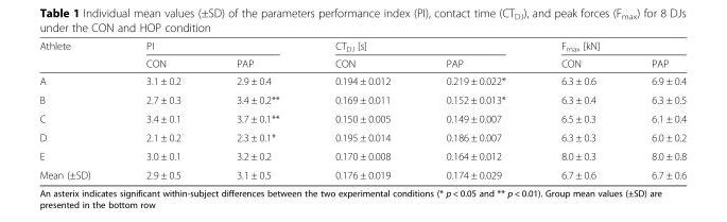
<table><thead><tr><td rowspan="2">Athlete</td><td colspan="2">PI</td><td colspan="2">CT<sub>DJ</sub> [s]</td><td colspan="2">F<sub>max</sub> [kN]</td></tr><tr><td>CON</td><td>PAP</td><td>CON</td><td>PAP</td><td>CON</td><td>PAP</td></tr></thead><tbody><tr><td>A</td><td>3.1 ± 0.2</td><td>2.9 ± 0.4</td><td>0.194 ± 0.012</td><td>0.219 ± 0.022*</td><td>6.3 ± 0.6</td><td>6.9 ± 0.4</td></tr><tr><td>B</td><td>2.7 ± 0.3</td><td>3.4 ± 0.2**</td><td>0.169 ± 0.011</td><td>0.152 ± 0.013*</td><td>6.3 ± 0.4</td><td>6.3 ± 0.5</td></tr><tr><td>C</td><td>3.4 ± 0.1</td><td>3.7 ± 0.1**</td><td>0.150 ± 0.005</td><td>0.149 ± 0.007</td><td>6.5 ± 0.3</td><td>6.1 ± 0.4</td></tr><tr><td>D</td><td>2.1 ± 0.2</td><td>2.3 ± 0.1*</td><td>0.195 ± 0.014</td><td>0.186 ± 0.007</td><td>6.3 ± 0.3</td><td>6.0 ± 0.2</td></tr><tr><td>E</td><td>3.0 ± 0.1</td><td>3.2 ± 0.2</td><td>0.170 ± 0.008</td><td>0.164 ± 0.012</td><td>8.0 ± 0.3</td><td>8.0 ± 0.8</td></tr><tr><td>Mean (±SD)</td><td>2.9 ± 0.5</td><td>3.1 ± 0.5</td><td>0.176 ± 0.019</td><td>0.174 ± 0.029</td><td>6.7 ± 0.6</td><td>6.7 ± 0.6</td></tr></tbody></table>